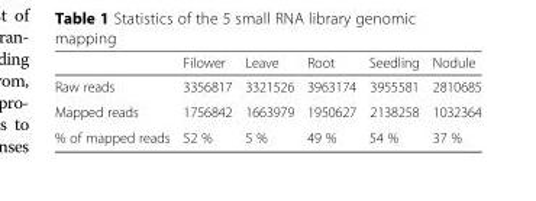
<table><thead><tr><td></td><td>Filower</td><td>Leave</td><td>Root</td><td>Seedling</td><td>Nodule</td></tr></thead><tbody><tr><td>Raw reads</td><td>3356817</td><td>3321526</td><td>3963174</td><td>3955581</td><td>2810685</td></tr><tr><td>Mapped reads</td><td>1756842</td><td>1663979</td><td>1950627</td><td>2138258</td><td>1032364</td></tr><tr><td>% of mapped reads</td><td>52 %</td><td>5 %</td><td>49 %</td><td>54 %</td><td>37 %</td></tr></tbody></table>